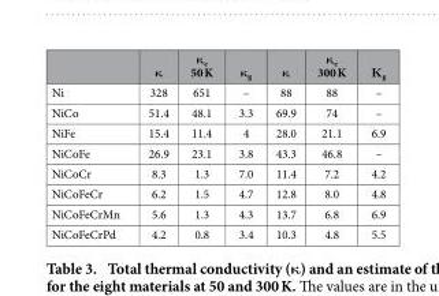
<table><thead><tr><td></td><td>κ</td><td>κ<sub>e</sub> 50 K</td><td>κ<sub>g</sub></td><td>κ</td><td>κ<sub>e</sub> 300 K</td><td>Κ<sub>g</sub></td></tr></thead><tbody><tr><td>Ni</td><td>328</td><td>651</td><td>–</td><td>88</td><td>88</td><td>–</td></tr><tr><td>NiCo</td><td>51.4</td><td>48.1</td><td>3.3</td><td>69.9</td><td>74</td><td>–</td></tr><tr><td>NiFe</td><td>15.4</td><td>11.4</td><td>4</td><td>28.0</td><td>21.1</td><td>6.9</td></tr><tr><td>NiCoFe</td><td>26.9</td><td>23.1</td><td>3.8</td><td>43.3</td><td>46.8</td><td>–</td></tr><tr><td>NiCoCr</td><td>8.3</td><td>1.3</td><td>7.0</td><td>11.4</td><td>7.2</td><td>4.2</td></tr><tr><td>NiCoFeCr</td><td>6.2</td><td>1.5</td><td>4.7</td><td>12.8</td><td>8.0</td><td>4.8</td></tr><tr><td>NiCoFeCrMn</td><td>5.6</td><td>1.3</td><td>4.3</td><td>13.7</td><td>6.8</td><td>6.9</td></tr><tr><td>NiCoFeCrPd</td><td>4.2</td><td>0.8</td><td>3.4</td><td>10.3</td><td>4.8</td><td>5.5</td></tr></tbody></table>